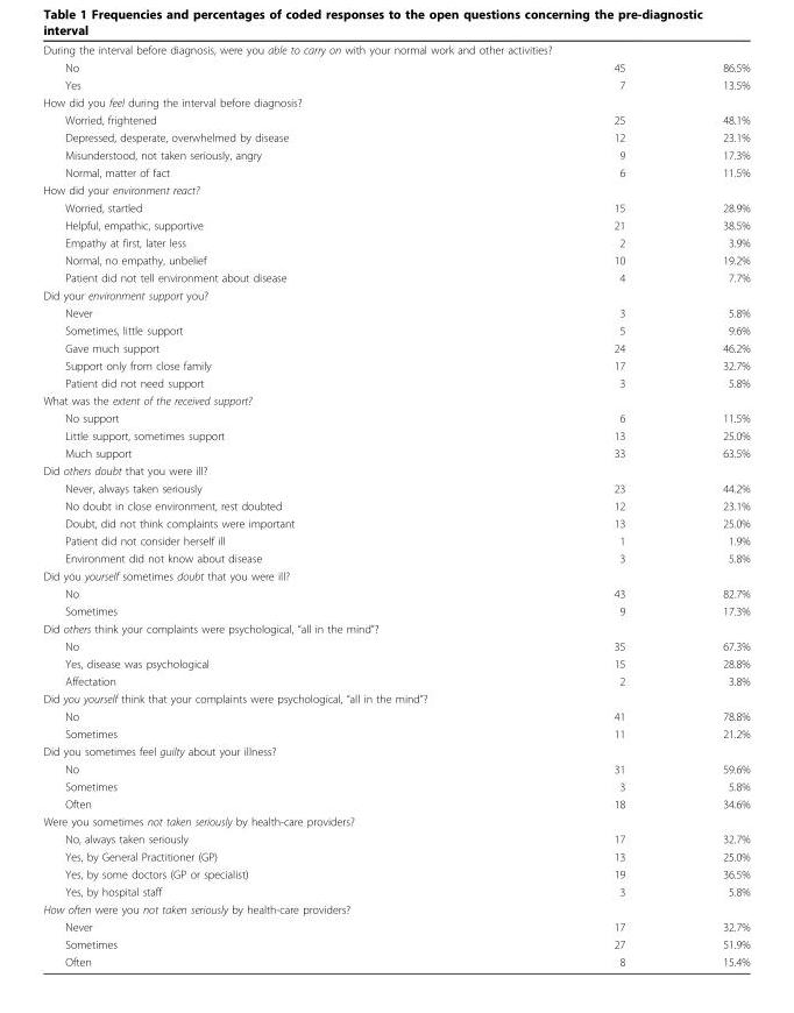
<table><tbody><tr><td colspan="3">During the interval before diagnosis, were you able to carry on with your normal work and other activities?</td></tr><tr><td>No</td><td>45</td><td>86.5%</td></tr><tr><td>Yes</td><td>7</td><td>13.5%</td></tr><tr><td colspan="3">How did you feel during the interval before diagnosis?</td></tr><tr><td>Worried, frightened</td><td>25</td><td>48.1%</td></tr><tr><td>Depressed, desperate, overwhelmed by disease</td><td>12</td><td>23.1%</td></tr><tr><td>Misunderstood, not taken seriously, angry</td><td>9</td><td>17.3%</td></tr><tr><td>Normal, matter of fact</td><td>6</td><td>11.5%</td></tr><tr><td colspan="3">How did your environment react?</td></tr><tr><td>Worried, startled</td><td>15</td><td>28.9%</td></tr><tr><td>Helpful, empathic, supportive</td><td>21</td><td>38.5%</td></tr><tr><td>Empathy at first, later less</td><td>2</td><td>3.9%</td></tr><tr><td>Normal, no empathy, unbelief</td><td>10</td><td>19.2%</td></tr><tr><td>Patient did not tell environment about disease</td><td>4</td><td>7.7%</td></tr><tr><td colspan="3">Did your environment support you?</td></tr><tr><td>Never</td><td>3</td><td>5.8%</td></tr><tr><td>Sometimes, little support</td><td>5</td><td>9.6%</td></tr><tr><td>Gave much support</td><td>24</td><td>46.2%</td></tr><tr><td>Support only from close family</td><td>17</td><td>32.7%</td></tr><tr><td>Patient did not need support</td><td>3</td><td>5.8%</td></tr><tr><td colspan="3">What was the extent of the received support?</td></tr><tr><td>No support</td><td>6</td><td>11.5%</td></tr><tr><td>Little support, sometimes support</td><td>13</td><td>25.0%</td></tr><tr><td>Much support</td><td>33</td><td>63.5%</td></tr><tr><td colspan="3">Did others doubt that you were ill?</td></tr><tr><td>Never, always taken seriously</td><td>23</td><td>44.2%</td></tr><tr><td>No doubt in close environment, rest doubted</td><td>12</td><td>23.1%</td></tr><tr><td>Doubt, did not think complaints were important</td><td>13</td><td>25.0%</td></tr><tr><td>Patient did not consider herself ill</td><td>1</td><td>1.9%</td></tr><tr><td>Environment did not know about disease</td><td>3</td><td>5.8%</td></tr><tr><td colspan="3">Did you yourself sometimes doubt that you were ill?</td></tr><tr><td>No</td><td>43</td><td>82.7%</td></tr><tr><td>Sometimes</td><td>9</td><td>17.3%</td></tr><tr><td colspan="3">Did others think your complaints were psychological, “all in the mind”?</td></tr><tr><td>No</td><td>35</td><td>67.3%</td></tr><tr><td>Yes, disease was psychological</td><td>15</td><td>28.8%</td></tr><tr><td>Affectation</td><td>2</td><td>3.8%</td></tr><tr><td colspan="3">Did you yourself think that your complaints were psychological, “all in the mind”?</td></tr><tr><td>No</td><td>41</td><td>78.8%</td></tr><tr><td>Sometimes</td><td>11</td><td>21.2%</td></tr><tr><td colspan="3">Did you sometimes feel guilty about your illness?</td></tr><tr><td>No</td><td>31</td><td>59.6%</td></tr><tr><td>Sometimes</td><td>3</td><td>5.8%</td></tr><tr><td>Often</td><td>18</td><td>34.6%</td></tr><tr><td colspan="3">Were you sometimes not taken seriously by health-care providers?</td></tr><tr><td>No, always taken seriously</td><td>17</td><td>32.7%</td></tr><tr><td>Yes, by General Practitioner (GP)</td><td>13</td><td>25.0%</td></tr><tr><td>Yes, by some doctors (GP or specialist)</td><td>19</td><td>36.5%</td></tr><tr><td>Yes, by hospital staff</td><td>3</td><td>5.8%</td></tr><tr><td colspan="3">How often were you not taken seriously by health-care providers?</td></tr><tr><td>Never</td><td>17</td><td>32.7%</td></tr><tr><td>Sometimes</td><td>27</td><td>51.9%</td></tr><tr><td>Often</td><td>8</td><td>15.4%</td></tr></tbody></table>